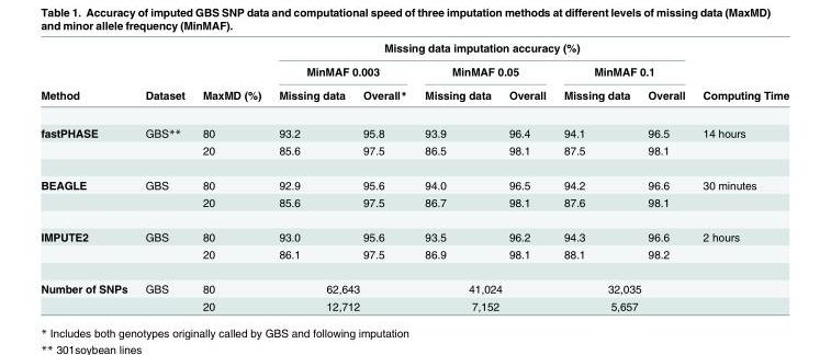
<table><thead><tr><td rowspan="3">Method</td><td rowspan="3">Dataset</td><td rowspan="3">MaxMD (%)</td><td colspan="6">Missing data imputation accuracy (%)</td><td rowspan="3">Computing Time</td></tr><tr><td colspan="2">MinMAF 0.003</td><td colspan="2">MinMAF 0.05</td><td colspan="2">MinMAF 0.1</td></tr><tr><td>Missing data</td><td>Overall*</td><td>Missing data</td><td>Overall</td><td>Missing data</td><td>Overall</td></tr></thead><tbody><tr><td rowspan="2">fastPHASE</td><td>GBS**</td><td>80</td><td>93.2</td><td>95.8</td><td>93.9</td><td>96.4</td><td>94.1</td><td>96.5</td><td>14 hours</td></tr><tr><td></td><td>20</td><td>85.6</td><td>97.5</td><td>86.5</td><td>98.1</td><td>87.5</td><td>98.1</td><td></td></tr><tr><td rowspan="2">BEAGLE</td><td>GBS</td><td>80</td><td>92.9</td><td>95.6</td><td>94.0</td><td>96.5</td><td>94.2</td><td>96.6</td><td>30 minutes</td></tr><tr><td></td><td>20</td><td>85.6</td><td>97.5</td><td>86.7</td><td>98.1</td><td>87.6</td><td>98.1</td><td></td></tr><tr><td rowspan="2">IMPUTE2</td><td>GBS</td><td>80</td><td>93.0</td><td>95.6</td><td>93.5</td><td>96.2</td><td>94.3</td><td>96.6</td><td>2 hours</td></tr><tr><td></td><td>20</td><td>86.1</td><td>97.5</td><td>86.9</td><td>98.1</td><td>88.1</td><td>98.2</td><td></td></tr><tr><td rowspan="2">Number of SNPs</td><td>GBS</td><td>80</td><td colspan="2">62,643</td><td colspan="2">41,024</td><td colspan="2">32,035</td><td></td></tr><tr><td></td><td>20</td><td colspan="2">12,712</td><td colspan="2">7,152</td><td colspan="2">5,657</td><td></td></tr></tbody></table>